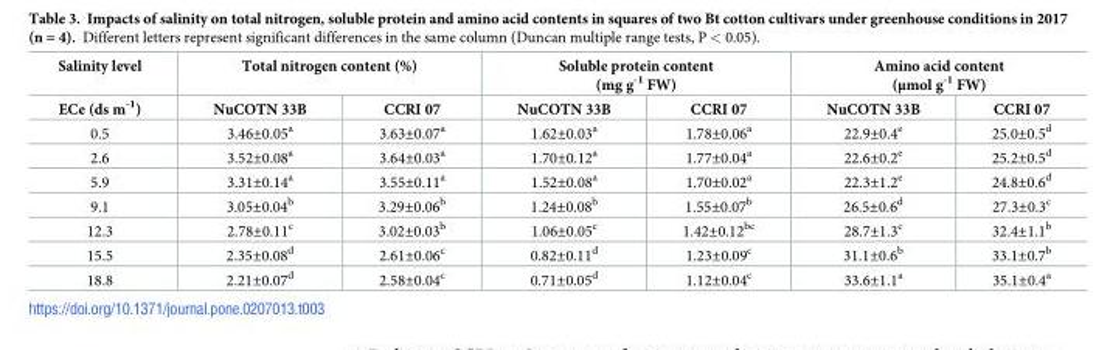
<table><thead><tr><td rowspan="2">Salinity level ECe (ds m<sup>-1</sup>)</td><td colspan="2">Total nitrogen content (%)</td><td colspan="2">Soluble protein content (mg g<sup>-1</sup> FW)</td><td colspan="2">Amino acid content (μmol g<sup>-1</sup> FW)</td></tr><tr><td>NuCOTN 33B</td><td>CCRI 07</td><td>NuCOTN 33B</td><td>CCRI 07</td><td>NuCOTN 33B</td><td>CCRI 07</td></tr></thead><tbody><tr><td>0.5</td><td>3.46±0.05<sup>a</sup></td><td>3.63±0.07<sup>a</sup></td><td>1.62±0.03<sup>a</sup></td><td>1.78±0.06<sup>a</sup></td><td>22.9±0.4<sup>e</sup></td><td>25.0±0.5<sup>d</sup></td></tr><tr><td>2.6</td><td>3.52±0.08<sup>a</sup></td><td>3.64±0.03<sup>a</sup></td><td>1.70±0.12<sup>a</sup></td><td>1.77±0.04<sup>a</sup></td><td>22.6±0.2<sup>e</sup></td><td>25.2±0.5<sup>d</sup></td></tr><tr><td>5.9</td><td>3.31±0.14<sup>a</sup></td><td>3.55±0.11<sup>a</sup></td><td>1.52±0.08<sup>a</sup></td><td>1.70±0.02<sup>a</sup></td><td>22.3±1.2<sup>e</sup></td><td>24.8±0.6<sup>d</sup></td></tr><tr><td>9.1</td><td>3.05±0.04<sup>b</sup></td><td>3.29±0.06<sup>b</sup></td><td>1.24±0.08<sup>b</sup></td><td>1.55±0.07<sup>b</sup></td><td>26.5±0.6<sup>d</sup></td><td>27.3±0.3<sup>c</sup></td></tr><tr><td>12.3</td><td>2.78±0.11<sup>c</sup></td><td>3.02±0.03<sup>b</sup></td><td>1.06±0.05<sup>c</sup></td><td>1.42±0.12<sup>bc</sup></td><td>28.7±1.3<sup>c</sup></td><td>32.4±1.1<sup>b</sup></td></tr><tr><td>15.5</td><td>2.35±0.08<sup>d</sup></td><td>2.61±0.06<sup>c</sup></td><td>0.82±0.11<sup>d</sup></td><td>1.23±0.09<sup>c</sup></td><td>31.1±0.6<sup>b</sup></td><td>33.1±0.7<sup>b</sup></td></tr><tr><td>18.8</td><td>2.21±0.07<sup>d</sup></td><td>2.58±0.04<sup>c</sup></td><td>0.71±0.05<sup>d</sup></td><td>1.12±0.04<sup>c</sup></td><td>33.6±1.1<sup>a</sup></td><td>35.1±0.4<sup>a</sup></td></tr></tbody></table>